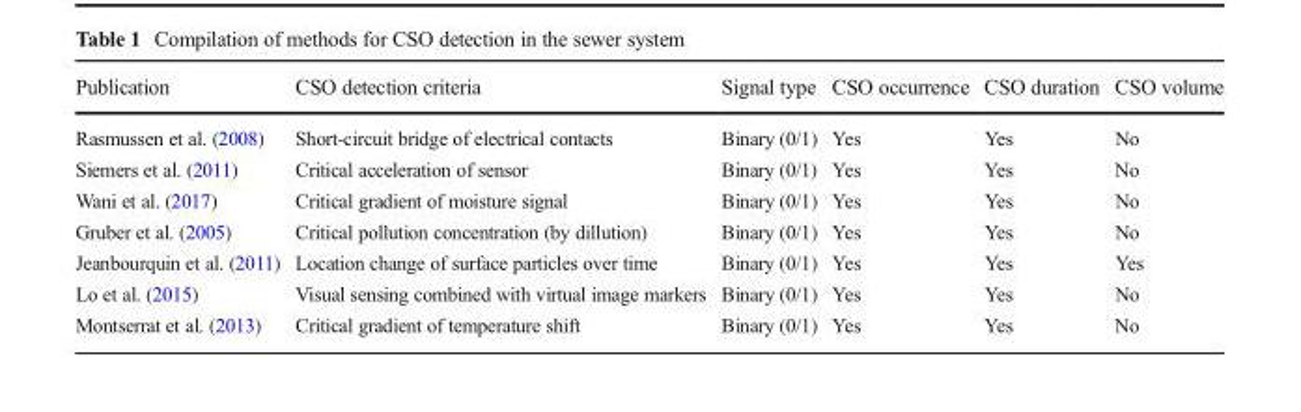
<table><thead><tr><td>Publication</td><td>CSO detection criteria</td><td>Signal type</td><td>CSO occurrence</td><td>CSO duration</td><td>CSO volume</td></tr></thead><tbody><tr><td>Rasmussen et al. (2008)</td><td>Short-circuit bridge of electrical contacts</td><td>Binary (0/1)</td><td>Yes</td><td>Yes</td><td>No</td></tr><tr><td>Siemers et al. (2011)</td><td>Critical acceleration of sensor</td><td>Binary (0/1)</td><td>Yes</td><td>Yes</td><td>No</td></tr><tr><td>Wani et al. (2017)</td><td>Critical gradient of moisture signal</td><td>Binary (0/1)</td><td>Yes</td><td>Yes</td><td>No</td></tr><tr><td>Gruber et al. (2005)</td><td>Critical pollution concentration (by dillution)</td><td>Binary (0/1)</td><td>Yes</td><td>Yes</td><td>No</td></tr><tr><td>Jeanbourquin et al. (2011)</td><td>Location change of surface particles over time</td><td>Binary (0/1)</td><td>Yes</td><td>Yes</td><td>Yes</td></tr><tr><td>Lo et al. (2015)</td><td>Visual sensing combined with virtual image markers</td><td>Binary (0/1)</td><td>Yes</td><td>Yes</td><td>No</td></tr><tr><td>Montserrat et al. (2013)</td><td>Critical gradient of temperature shift</td><td>Binary (0/1)</td><td>Yes</td><td>Yes</td><td>No</td></tr></tbody></table>